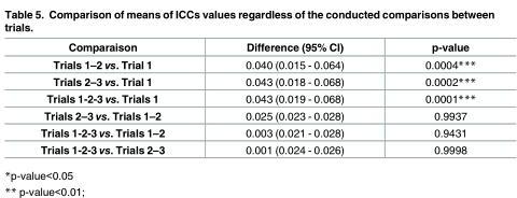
<table><thead><tr><td>Comparaison</td><td>Difference (95% CI)</td><td>p-value</td></tr></thead><tbody><tr><td>Trials 1–2 vs. Trial 1</td><td>0.040 (0.015 - 0.064)</td><td>0.0004***</td></tr><tr><td>Trials 2–3 vs. Trial 1</td><td>0.043 (0.018 - 0.068)</td><td>0.0002***</td></tr><tr><td>Trials 1-2-3 vs. Trials 1</td><td>0.043 (0.019 - 0.068)</td><td>0.0001***</td></tr><tr><td>Trials 2–3 vs. Trials 1–2</td><td>0.025 (0.023 - 0.028)</td><td>0.9937</td></tr><tr><td>Trials 1-2-3 vs. Trials 1–2</td><td>0.003 (0.021 - 0.028)</td><td>0.9431</td></tr><tr><td>Trials 1-2-3 vs. Trials 2–3</td><td>0.001 (0.024 - 0.026)</td><td>0.9998</td></tr></tbody></table>